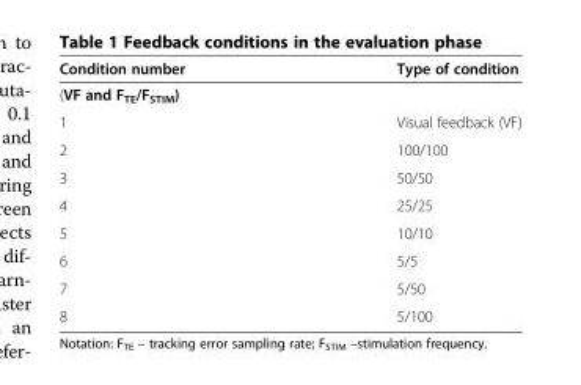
<table><thead><tr><td>Condition number</td><td>Type of condition</td></tr></thead><tbody><tr><td colspan="2">(VF and F<sub>TE</sub>/F<sub>STIM</sub>)</td></tr><tr><td>1</td><td>Visual feedback (VF)</td></tr><tr><td>2</td><td>100/100</td></tr><tr><td>3</td><td>50/50</td></tr><tr><td>4</td><td>25/25</td></tr><tr><td>5</td><td>10/10</td></tr><tr><td>6</td><td>5/5</td></tr><tr><td>7</td><td>5/50</td></tr><tr><td>8</td><td>5/100</td></tr></tbody></table>